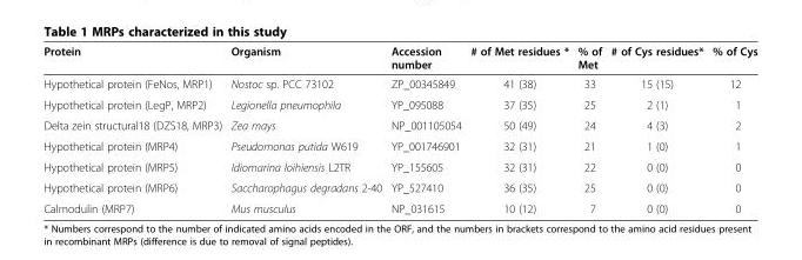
<table><thead><tr><td>Protein</td><td>Organism</td><td>Accession number</td><td># of Met residues *</td><td>% of Met</td><td># of Cys residues*</td><td>% of Cys</td></tr></thead><tbody><tr><td>Hypothetical protein (FeNos, MRP1)</td><td>Nostoc sp. PCC 73102</td><td>ZP_00345849</td><td>41 (38)</td><td>33</td><td>15 (15)</td><td>12</td></tr><tr><td>Hypothetical protein (LegP, MRP2)</td><td>Legionella pneumophila</td><td>YP_095088</td><td>37 (35)</td><td>25</td><td>2 (1)</td><td>1</td></tr><tr><td>Delta zein structural18 (DZS18, MRP3)</td><td>Zea mays</td><td>NP_001105054</td><td>50 (49)</td><td>24</td><td>4 (3)</td><td>2</td></tr><tr><td>Hypothetical protein (MRP4)</td><td>Pseudomonas putida W619</td><td>YP_001746901</td><td>32 (31)</td><td>21</td><td>1 (0)</td><td>1</td></tr><tr><td>Hypothetical protein (MRP5)</td><td>Idiomarina loihiensis L2TR</td><td>YP_155605</td><td>32 (31)</td><td>22</td><td>0 (0)</td><td>0</td></tr><tr><td>Hypothetical protein (MRP6)</td><td>Saccharophagus degradans 2-40</td><td>YP_527410</td><td>36 (35)</td><td>25</td><td>0 (0)</td><td>0</td></tr><tr><td>Calmodulin (MRP7)</td><td>Mus musculus</td><td>NP_031615</td><td>10 (12)</td><td>7</td><td>0 (0)</td><td>0</td></tr></tbody></table>